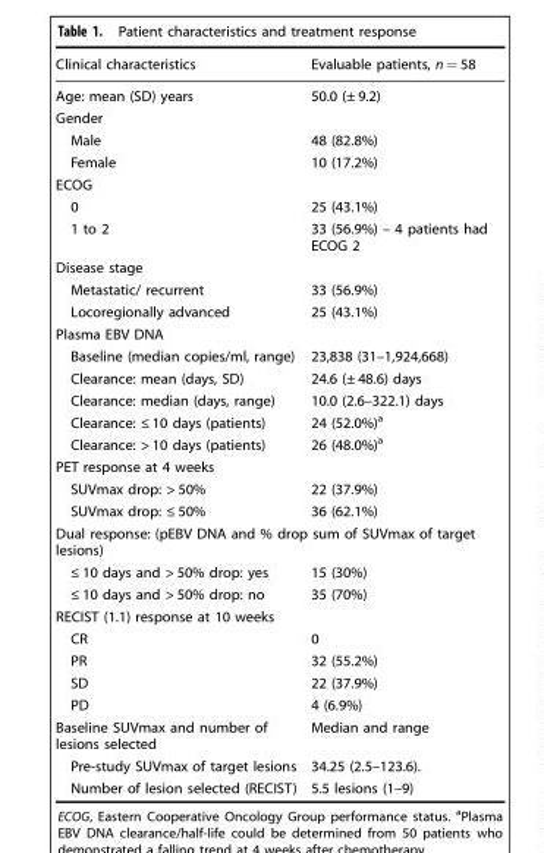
<table><thead><tr><td>Clinical characteristics</td><td>Evaluable patients, n = 58</td></tr></thead><tbody><tr><td>Age: mean (SD) years</td><td>50.0 (± 9.2)</td></tr><tr><td colspan="2">Gender</td></tr><tr><td>Male</td><td>48 (82.8%)</td></tr><tr><td>Female</td><td>10 (17.2%)</td></tr><tr><td colspan="2">ECOG</td></tr><tr><td>0</td><td>25 (43.1%)</td></tr><tr><td>1 to 2</td><td>33 (56.9%) – 4 patients had ECOG 2</td></tr><tr><td colspan="2">Disease stage</td></tr><tr><td>Metastatic/ recurrent</td><td>33 (56.9%)</td></tr><tr><td>Locoregionally advanced</td><td>25 (43.1%)</td></tr><tr><td colspan="2">Plasma EBV DNA</td></tr><tr><td>Baseline (median copies/ml, range)</td><td>23,838 (31–1,924,668)</td></tr><tr><td>Clearance: mean (days, SD)</td><td>24.6 (± 48.6) days</td></tr><tr><td>Clearance: median (days, range)</td><td>10.0 (2.6–322.1) days</td></tr><tr><td>Clearance: ≤ 10 days (patients)</td><td>24 (52.0%)<sup>a</sup></td></tr><tr><td>Clearance: &gt; 10 days (patients)</td><td>26 (48.0%)<sup>a</sup></td></tr><tr><td colspan="2">PET response at 4 weeks</td></tr><tr><td>SUVmax drop: &gt; 50%</td><td>22 (37.9%)</td></tr><tr><td>SUVmax drop: ≤ 50%</td><td>36 (62.1%)</td></tr><tr><td colspan="2">Dual response: (pEBV DNA and % drop sum of SUVmax of target lesions)</td></tr><tr><td>≤ 10 days and &gt; 50% drop: yes</td><td>15 (30%)</td></tr><tr><td>≤ 10 days and &gt; 50% drop: no</td><td>35 (70%)</td></tr><tr><td colspan="2">RECIST (1.1) response at 10 weeks</td></tr><tr><td>CR</td><td>0</td></tr><tr><td>PR</td><td>32 (55.2%)</td></tr><tr><td>SD</td><td>22 (37.9%)</td></tr><tr><td>PD</td><td>4 (6.9%)</td></tr><tr><td>Baseline SUVmax and number of lesions selected</td><td>Median and range</td></tr><tr><td>Pre-study SUVmax of target lesions</td><td>34.25 (2.5–123.6).</td></tr><tr><td>Number of lesion selected (RECIST)</td><td>5.5 lesions (1–9)</td></tr></tbody></table>